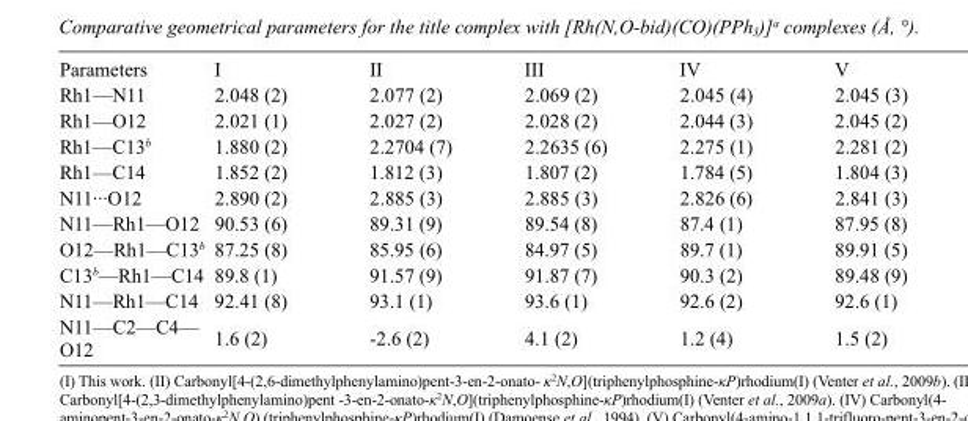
<table><thead><tr><td>Parameters</td><td>I</td><td>II</td><td>III</td><td>IV</td><td>V</td></tr></thead><tbody><tr><td>Rh1—N11</td><td>2.048 (2)</td><td>2.077 (2)</td><td>2.069 (2)</td><td>2.045 (4)</td><td>2.045 (3)</td></tr><tr><td>Rh1—O12</td><td>2.021 (1)</td><td>2.027 (2)</td><td>2.028 (2)</td><td>2.044 (3)</td><td>2.045 (2)</td></tr><tr><td>Rh1—C13<sup>b</sup></td><td>1.880 (2)</td><td>2.2704 (7)</td><td>2.2635 (6)</td><td>2.275 (1)</td><td>2.281 (2)</td></tr><tr><td>Rh1—C14</td><td>1.852 (2)</td><td>1.812 (3)</td><td>1.807 (2)</td><td>1.784 (5)</td><td>1.804 (3)</td></tr><tr><td>N11···O12</td><td>2.890 (2)</td><td>2.885 (3)</td><td>2.885 (3)</td><td>2.826 (6)</td><td>2.841 (3)</td></tr><tr><td>N11—Rh1—O12</td><td>90.53 (6)</td><td>89.31 (9)</td><td>89.54 (8)</td><td>87.4 (1)</td><td>87.95 (8)</td></tr><tr><td>O12—Rh1—C13<sup>b</sup></td><td>87.25 (8)</td><td>85.95 (6)</td><td>84.97 (5)</td><td>89.7 (1)</td><td>89.91 (5)</td></tr><tr><td>C13<sup>b</sup>—Rh1—C14</td><td>89.8 (1)</td><td>91.57 (9)</td><td>91.87 (7)</td><td>90.3 (2)</td><td>89.48 (9)</td></tr><tr><td>N11—Rh1—C14</td><td>92.41 (8)</td><td>93.1 (1)</td><td>93.6 (1)</td><td>92.6 (2)</td><td>92.6 (1)</td></tr><tr><td>N11—C2—C4— O12</td><td>1.6 (2)</td><td>-2.6 (2)</td><td>4.1 (2)</td><td>1.2 (4)</td><td>1.5 (2)</td></tr></tbody></table>